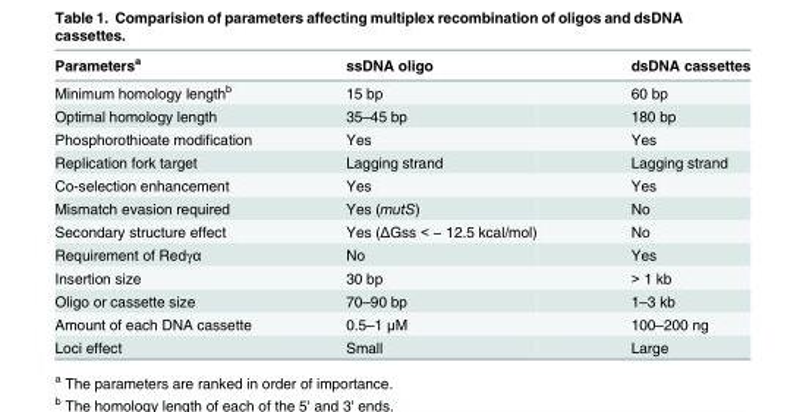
<table><thead><tr><td>Parameters<sup>a</sup></td><td>ssDNA oligo</td><td>dsDNA cassettes</td></tr></thead><tbody><tr><td>Minimum homology length<sup>b</sup></td><td>15 bp</td><td>60 bp</td></tr><tr><td>Optimal homology length</td><td>35–45 bp</td><td>180 bp</td></tr><tr><td>Phosphorothioate modification</td><td>Yes</td><td>Yes</td></tr><tr><td>Replication fork target</td><td>Lagging strand</td><td>Lagging strand</td></tr><tr><td>Co-selection enhancement</td><td>Yes</td><td>Yes</td></tr><tr><td>Mismatch evasion required</td><td>Yes (mutS)</td><td>No</td></tr><tr><td>Secondary structure effect</td><td>Yes (ΔGss &lt; − 12.5 kcal/mol)</td><td>No</td></tr><tr><td>Requirement of Redγα</td><td>No</td><td>Yes</td></tr><tr><td>Insertion size</td><td>30 bp</td><td>&gt; 1 kb</td></tr><tr><td>Oligo or cassette size</td><td>70–90 bp</td><td>1–3 kb</td></tr><tr><td>Amount of each DNA cassette</td><td>0.5–1 μM</td><td>100–200 ng</td></tr><tr><td>Loci effect</td><td>Small</td><td>Large</td></tr></tbody></table>